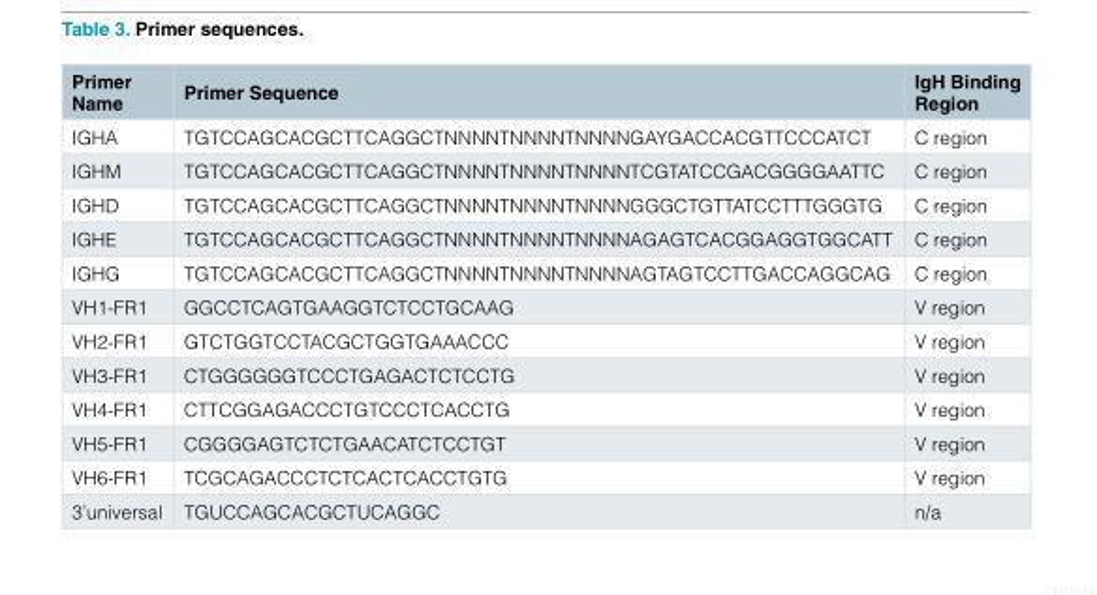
<table><thead><tr><td>Primer Name</td><td>Primer Sequence</td><td>IgH Binding Region</td></tr></thead><tbody><tr><td>IGHA</td><td>TGTCCAGCACGCTTCAGGCTNNNNTNNNNTNNNNGAYGACCACGTTCCCATCT</td><td>C region</td></tr><tr><td>IGHM</td><td>TGTCCAGCACGCTTCAGGCTNNNNTNNNNTNNNNTCGTATCCGACGGGGAATTC</td><td>C region</td></tr><tr><td>IGHD</td><td>TGTCCAGCACGCTTCAGGCTNNNNTNNNNTNNNNGGGCTGTTATCCTTTGGGTG</td><td>C region</td></tr><tr><td>IGHE</td><td>TGTCCAGCACGCTTCAGGCTNNNNTNNNNTNNNNAGAGTCACGGAGGTGGCATT</td><td>C region</td></tr><tr><td>IGHG</td><td>TGTCCAGCACGCTTCAGGCTNNNNTNNNNTNNNNAGTAGTCCTTGACCAGGCAG</td><td>C region</td></tr><tr><td>VH1-FR1</td><td>GGCCTCAGTGAAGGTCTCCTGCAAG</td><td>V region</td></tr><tr><td>VH2-FR1</td><td>GTCTGGTCCTACGCTGGTGAAACCC</td><td>V region</td></tr><tr><td>VH3-FR1</td><td>CTGGGGGGTCCCTGAGACTCTCCTG</td><td>V region</td></tr><tr><td>VH4-FR1</td><td>CTTCGGAGACCCTGTCCCTCACCTG</td><td>V region</td></tr><tr><td>VH5-FR1</td><td>CGGGGAGTCTCTGAACATCTCCTGT</td><td>V region</td></tr><tr><td>VH6-FR1</td><td>TCGCAGACCCTCTCACTCACCTGTG</td><td>V region</td></tr><tr><td>3’universal</td><td>TGUCCAGCACGCTUCAGGC</td><td>n/a</td></tr></tbody></table>